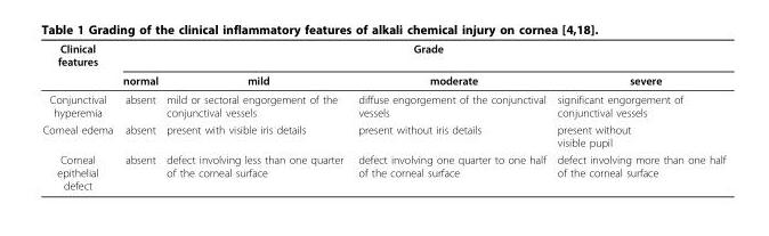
<table><thead><tr><td rowspan="2">Clinical features</td><td colspan="4">Grade</td></tr><tr><td>normal</td><td>mild</td><td>moderate</td><td>severe</td></tr></thead><tbody><tr><td>Conjunctival hyperemia</td><td>absent</td><td>mild or sectoral engorgement of the conjunctival vessels</td><td>diffuse engorgement of the conjunctival vessels</td><td>significant engorgement of conjunctival vessels</td></tr><tr><td>Corneal edema</td><td>absent</td><td>present with visible iris details</td><td>present without iris details</td><td>present without visible pupil</td></tr><tr><td>Corneal epithelial defect</td><td>absent</td><td>defect involving less than one quarter of the corneal surface</td><td>defect involving one quarter to one half of the corneal surface</td><td>defect involving more than one half of the corneal surface</td></tr></tbody></table>